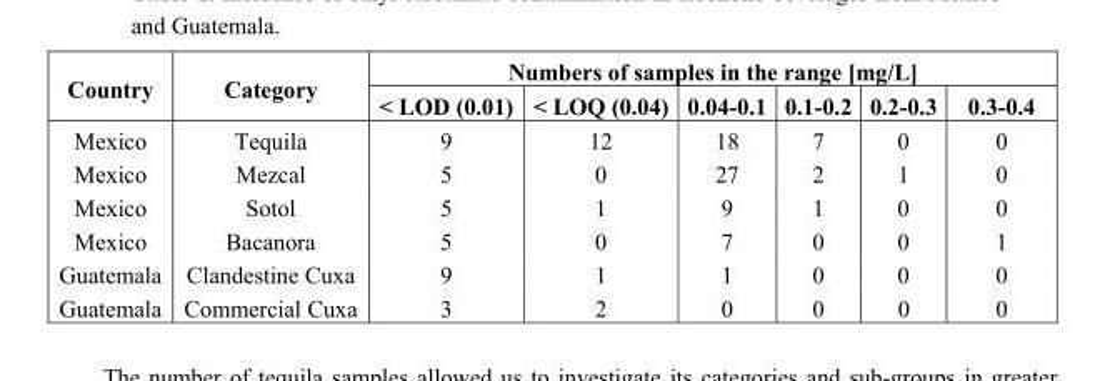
<table><thead><tr><td rowspan="2">Country</td><td rowspan="2">Category</td><td colspan="6">Numbers of samples in the range [mg/L]</td></tr><tr><td>&lt; LOD (0.01)</td><td>&lt; LOQ (0.04)</td><td>0.04-0.1</td><td>0.1-0.2</td><td>0.2-0.3</td><td>0.3-0.4</td></tr></thead><tbody><tr><td>Mexico</td><td>Tequila</td><td>9</td><td>12</td><td>18</td><td>7</td><td>0</td><td>0</td></tr><tr><td>Mexico</td><td>Mezcal</td><td>5</td><td>0</td><td>27</td><td>2</td><td>1</td><td>0</td></tr><tr><td>Mexico</td><td>Sotol</td><td>5</td><td>1</td><td>9</td><td>1</td><td>0</td><td>0</td></tr><tr><td>Mexico</td><td>Bacanora</td><td>5</td><td>0</td><td>7</td><td>0</td><td>0</td><td>1</td></tr><tr><td>Guatemala</td><td>Clandestine Cuxa</td><td>9</td><td>1</td><td>1</td><td>0</td><td>0</td><td>0</td></tr><tr><td>Guatemala</td><td>Commercial Cuxa</td><td>3</td><td>2</td><td>0</td><td>0</td><td>0</td><td>0</td></tr></tbody></table>